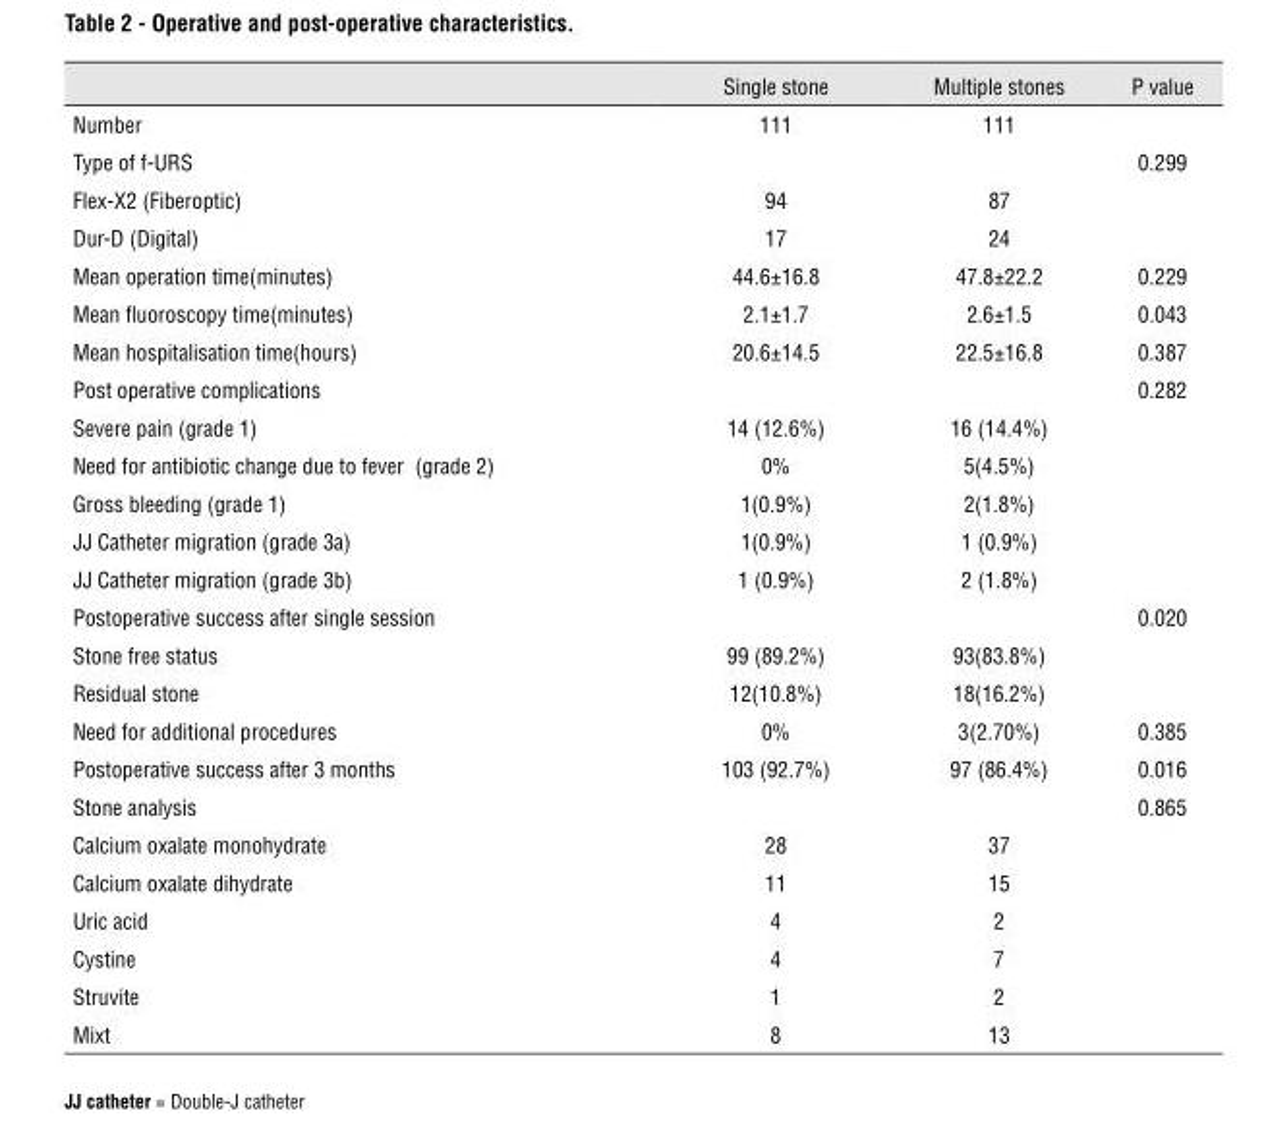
<table><thead><tr><td></td><td>Single stone</td><td>Multiple stones</td><td>P value</td></tr></thead><tbody><tr><td>Number</td><td>111</td><td>111</td><td></td></tr><tr><td>Type of f-URS</td><td></td><td></td><td>0.299</td></tr><tr><td>Flex-X2 (Fiberoptic)</td><td>94</td><td>87</td><td></td></tr><tr><td>Dur-D (Digital)</td><td>17</td><td>24</td><td></td></tr><tr><td>Mean operation time(minutes)</td><td>44.6±16.8</td><td>47.8±22.2</td><td>0.229</td></tr><tr><td>Mean fluoroscopy time(minutes)</td><td>2.1±1.7</td><td>2.6±1.5</td><td>0.043</td></tr><tr><td>Mean hospitalisation time(hours)</td><td>20.6±14.5</td><td>22.5±16.8</td><td>0.387</td></tr><tr><td>Post operative complications</td><td></td><td></td><td>0.282</td></tr><tr><td>Severe pain (grade 1)</td><td>14 (12.6%)</td><td>16 (14.4%)</td><td></td></tr><tr><td>Need for antibiotic change due to fever (grade 2)</td><td>0%</td><td>5(4.5%)</td><td></td></tr><tr><td>Gross bleeding (grade 1)</td><td>1(0.9%)</td><td>2(1.8%)</td><td></td></tr><tr><td>JJ Catheter migration (grade 3a)</td><td>1(0.9%)</td><td>1 (0.9%)</td><td></td></tr><tr><td>JJ Catheter migration (grade 3b)</td><td>1 (0.9%)</td><td>2 (1.8%)</td><td></td></tr><tr><td>Postoperative success after single session</td><td></td><td></td><td>0.020</td></tr><tr><td>Stone free status</td><td>99 (89.2%)</td><td>93(83.8%)</td><td></td></tr><tr><td>Residual stone</td><td>12(10.8%)</td><td>18(16.2%)</td><td></td></tr><tr><td>Need for additional procedures</td><td>0%</td><td>3(2.70%)</td><td>0.385</td></tr><tr><td>Postoperative success after 3 months</td><td>103 (92.7%)</td><td>97 (86.4%)</td><td>0.016</td></tr><tr><td>Stone analysis</td><td></td><td></td><td>0.865</td></tr><tr><td>Calcium oxalate monohydrate</td><td>28</td><td>37</td><td></td></tr><tr><td>Calcium oxalate dihydrate</td><td>11</td><td>15</td><td></td></tr><tr><td>Uric acid</td><td>4</td><td>2</td><td></td></tr><tr><td>Cystine</td><td>4</td><td>7</td><td></td></tr><tr><td>Struvite</td><td>1</td><td>2</td><td></td></tr><tr><td>Mixt</td><td>8</td><td>13</td><td></td></tr></tbody></table>